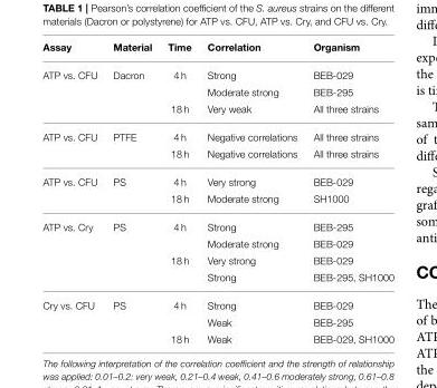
<table><thead><tr><td>Assay</td><td>Material</td><td>Time</td><td>Correlation</td><td>Organism</td></tr></thead><tbody><tr><td rowspan="3">ATP vs. CFU</td><td>Dacron</td><td>4 h</td><td>Strong</td><td>BEB-029</td></tr><tr><td></td><td></td><td>Moderate strong</td><td>BEB-295</td></tr><tr><td></td><td>18 h</td><td>Very weak</td><td>All three strains</td></tr><tr><td rowspan="2">ATP vs. CFU</td><td>PTFE</td><td>4 h</td><td>Negative correlations</td><td>All three strains</td></tr><tr><td></td><td>18 h</td><td>Negative correlations</td><td>All three strains</td></tr><tr><td rowspan="2">ATP vs. CFU</td><td>PS</td><td>4 h</td><td>Very strong</td><td>BEB-029</td></tr><tr><td></td><td>18 h</td><td>Moderate strong</td><td>SH1000</td></tr><tr><td rowspan="4">ATP vs. Cry</td><td>PS</td><td>4 h</td><td>Strong</td><td>BEB-295</td></tr><tr><td></td><td></td><td>Moderate strong</td><td>BEB-029</td></tr><tr><td></td><td>18 h</td><td>Very strong</td><td>BEB-029</td></tr><tr><td></td><td></td><td>Strong</td><td>BEB-295, SH1000</td></tr><tr><td rowspan="3">Cry vs. CFU</td><td>PS</td><td>4 h</td><td>Strong</td><td>BEB-029</td></tr><tr><td></td><td></td><td>Weak</td><td>BEB-295</td></tr><tr><td></td><td>18 h</td><td>Weak</td><td>BEB-029, SH1000</td></tr></tbody></table>